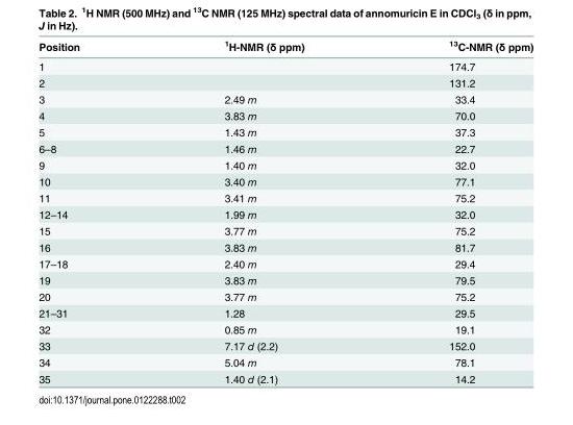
<table><thead><tr><td>Position</td><td><sup>1</sup>H-NMR (δ ppm)</td><td><sup>13</sup>C-NMR (δ ppm)</td></tr></thead><tbody><tr><td>1</td><td></td><td>174.7</td></tr><tr><td>2</td><td></td><td>131.2</td></tr><tr><td>3</td><td>2.49 m</td><td>33.4</td></tr><tr><td>4</td><td>3.83 m</td><td>70.0</td></tr><tr><td>5</td><td>1.43 m</td><td>37.3</td></tr><tr><td>6–8</td><td>1.46 m</td><td>22.7</td></tr><tr><td>9</td><td>1.40 m</td><td>32.0</td></tr><tr><td>10</td><td>3.40 m</td><td>77.1</td></tr><tr><td>11</td><td>3.41 m</td><td>75.2</td></tr><tr><td>12–14</td><td>1.99 m</td><td>32.0</td></tr><tr><td>15</td><td>3.77 m</td><td>75.2</td></tr><tr><td>16</td><td>3.83 m</td><td>81.7</td></tr><tr><td>17–18</td><td>2.40 m</td><td>29.4</td></tr><tr><td>19</td><td>3.83 m</td><td>79.5</td></tr><tr><td>20</td><td>3.77 m</td><td>75.2</td></tr><tr><td>21–31</td><td>1.28</td><td>29.5</td></tr><tr><td>32</td><td>0.85 m</td><td>19.1</td></tr><tr><td>33</td><td>7.17 d (2.2)</td><td>152.0</td></tr><tr><td>34</td><td>5.04 m</td><td>78.1</td></tr><tr><td>35</td><td>1.40 d (2.1)</td><td>14.2</td></tr></tbody></table>